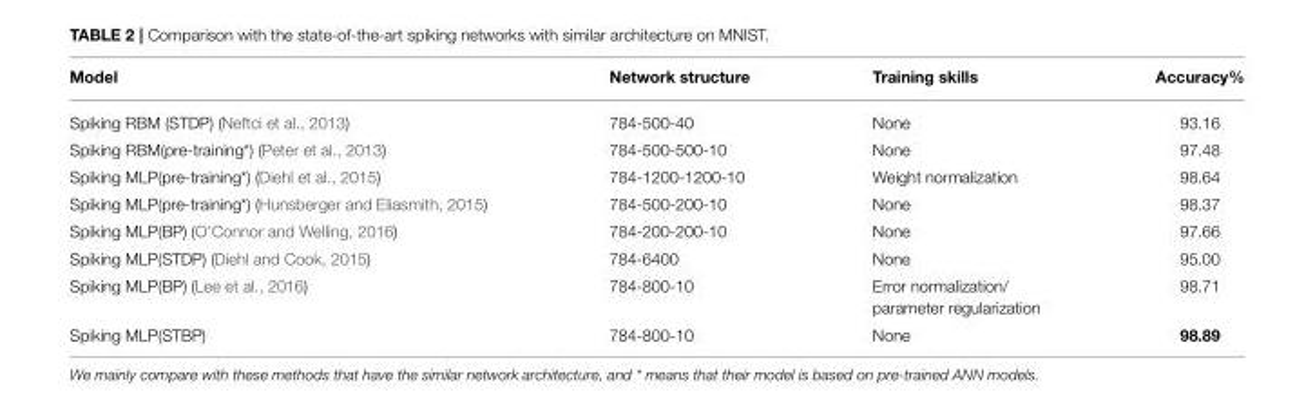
<table><thead><tr><td>Model</td><td>Network structure</td><td>Training skills</td><td>Accuracy%</td></tr></thead><tbody><tr><td>Spiking RBM (STDP) (Neftci et al., 2013)</td><td>784-500-40</td><td>None</td><td>93.16</td></tr><tr><td>Spiking RBM(pre-training*) (Peter et al., 2013)</td><td>784-500-500-10</td><td>None</td><td>97.48</td></tr><tr><td>Spiking MLP(pre-training*) (Diehl et al., 2015)</td><td>784-1200-1200-10</td><td>Weight normalization</td><td>98.64</td></tr><tr><td>Spiking MLP(pre-training*) (Hunsberger and Eliasmith, 2015)</td><td>784-500-200-10</td><td>None</td><td>98.37</td></tr><tr><td>Spiking MLP(BP) (O’Connor and Welling, 2016)</td><td>784-200-200-10</td><td>None</td><td>97.66</td></tr><tr><td>Spiking MLP(STDP) (Diehl and Cook, 2015)</td><td>784-6400</td><td>None</td><td>95.00</td></tr><tr><td>Spiking MLP(BP) (Lee et al., 2016)</td><td>784-800-10</td><td>Error normalization/ parameter regularization</td><td>98.71</td></tr><tr><td>Spiking MLP(STBP)</td><td>784-800-10</td><td>None</td><td>98.89</td></tr></tbody></table>